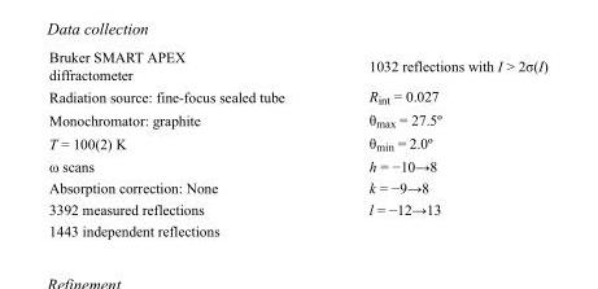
<table><tbody><tr><td>Bruker SMART APEX diffractometer</td><td>1032 reflections with I &gt; 2σ(I)</td></tr><tr><td>Radiation source: fine-focus sealed tube</td><td>R<sub>int</sub> = 0.027</td></tr><tr><td>Monochromator: graphite</td><td>θ<sub>max</sub> = 27.5º</td></tr><tr><td>T = 100(2) K</td><td>θ<sub>min</sub> = 2.0º</td></tr><tr><td>ω scans</td><td>h = −10→8</td></tr><tr><td>Absorption correction: None</td><td>k = −9→8</td></tr><tr><td>3392 measured reflections</td><td>l = −12→13</td></tr><tr><td>1443 independent reflections</td><td></td></tr></tbody></table>